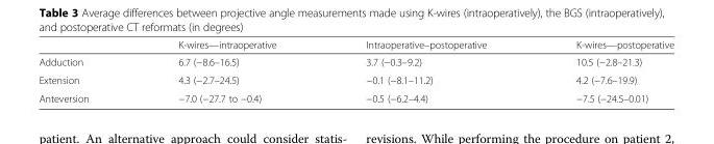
<table><thead><tr><td></td><td>K-wires—intraoperative</td><td>Intraoperative–postoperative</td><td>K-wires—postoperative</td></tr></thead><tbody><tr><td>Adduction</td><td>6.7 (−8.6–16.5)</td><td>3.7 (−0.3–9.2)</td><td>10.5 (−2.8–21.3)</td></tr><tr><td>Extension</td><td>4.3 (−2.7–24.5)</td><td>−0.1 (−8.1–11.2)</td><td>4.2 (−7.6–19.9)</td></tr><tr><td>Anteversion</td><td>−7.0 (−27.7 to −0.4)</td><td>−0.5 (−6.2–4.4)</td><td>−7.5 (−24.5–0.01)</td></tr></tbody></table>